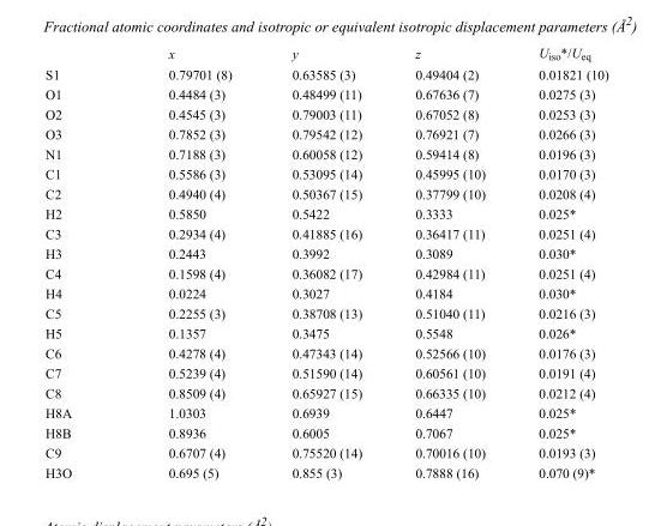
<table><thead><tr><td></td><td>x</td><td>y</td><td>z</td><td>U<sub>iso</sub>*/U<sub>eq</sub></td></tr></thead><tbody><tr><td>S1</td><td>0.79701 (8)</td><td>0.63585 (3)</td><td>0.49404 (2)</td><td>0.01821 (10)</td></tr><tr><td>O1</td><td>0.4484 (3)</td><td>0.48499 (11)</td><td>0.67636 (7)</td><td>0.0275 (3)</td></tr><tr><td>O2</td><td>0.4545 (3)</td><td>0.79003 (11)</td><td>0.67052 (8)</td><td>0.0253 (3)</td></tr><tr><td>O3</td><td>0.7852 (3)</td><td>0.79542 (12)</td><td>0.76921 (7)</td><td>0.0266 (3)</td></tr><tr><td>N1</td><td>0.7188 (3)</td><td>0.60058 (12)</td><td>0.59414 (8)</td><td>0.0196 (3)</td></tr><tr><td>C1</td><td>0.5586 (3)</td><td>0.53095 (14)</td><td>0.45995 (10)</td><td>0.0170 (3)</td></tr><tr><td>C2</td><td>0.4940 (4)</td><td>0.50367 (15)</td><td>0.37799 (10)</td><td>0.0208 (4)</td></tr><tr><td>H2</td><td>0.5850</td><td>0.5422</td><td>0.3333</td><td>0.025*</td></tr><tr><td>C3</td><td>0.2934 (4)</td><td>0.41885 (16)</td><td>0.36417 (11)</td><td>0.0251 (4)</td></tr><tr><td>H3</td><td>0.2443</td><td>0.3992</td><td>0.3089</td><td>0.030*</td></tr><tr><td>C4</td><td>0.1598 (4)</td><td>0.36082 (17)</td><td>0.42984 (11)</td><td>0.0251 (4)</td></tr><tr><td>H4</td><td>0.0224</td><td>0.3027</td><td>0.4184</td><td>0.030*</td></tr><tr><td>C5</td><td>0.2255 (3)</td><td>0.38708 (13)</td><td>0.51040 (11)</td><td>0.0216 (3)</td></tr><tr><td>H5</td><td>0.1357</td><td>0.3475</td><td>0.5548</td><td>0.026*</td></tr><tr><td>C6</td><td>0.4278 (4)</td><td>0.47343 (14)</td><td>0.52566 (10)</td><td>0.0176 (3)</td></tr><tr><td>C7</td><td>0.5239 (4)</td><td>0.51590 (14)</td><td>0.60561 (10)</td><td>0.0191 (4)</td></tr><tr><td>C8</td><td>0.8509 (4)</td><td>0.65927 (15)</td><td>0.66335 (10)</td><td>0.0212 (4)</td></tr><tr><td>H8A</td><td>1.0303</td><td>0.6939</td><td>0.6447</td><td>0.025*</td></tr><tr><td>H8B</td><td>0.8936</td><td>0.6005</td><td>0.7067</td><td>0.025*</td></tr><tr><td>C9</td><td>0.6707 (4)</td><td>0.75520 (14)</td><td>0.70016 (10)</td><td>0.0193 (3)</td></tr><tr><td>H3O</td><td>0.695 (5)</td><td>0.855 (3)</td><td>0.7888 (16)</td><td>0.070 (9)*</td></tr></tbody></table>